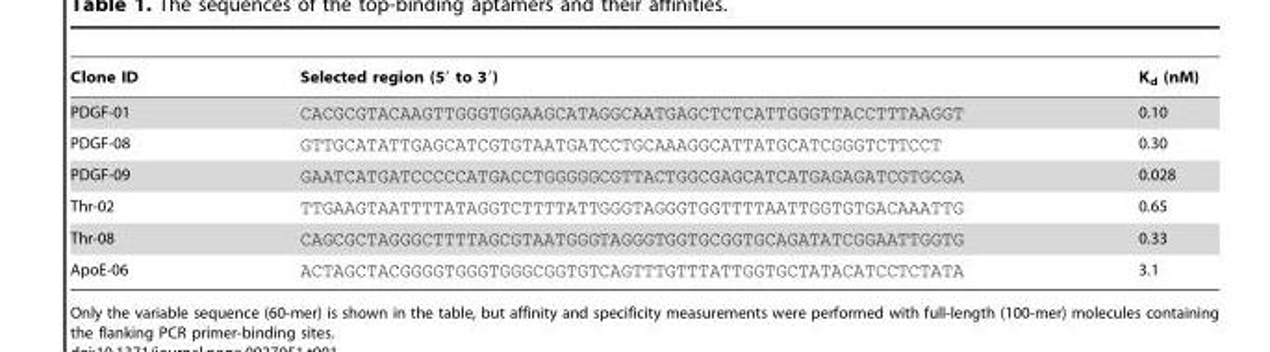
<table><thead><tr><td>Clone ID</td><td>Selected region (5′ to 3′)</td><td>K<sub>d</sub> (nM)</td></tr></thead><tbody><tr><td>PDGF-01</td><td>CACGCGTACAAGTTGGGTGGAAGCATAGGCAATGAGCTCTCATTGGGTTACCTTTAAGGT</td><td>0.10</td></tr><tr><td>PDGF-08</td><td>GTTGCATATTGAGCATCGTGTAATGATCCTGCAAAGGCATTATGCATCGGGTCTTCCT</td><td>0.30</td></tr><tr><td>PDGF-09</td><td>GAATCATGATCCCCCATGACCTGGGGGCGTTACTGGCGAGCATCATGAGAGATCGTGCGA</td><td>0.028</td></tr><tr><td>Thr-02</td><td>TTGAAGTAATTTTATAGGTCTTTTATTGGGTAGGGTGGTTTTAATTGGTGTGACAAATTG</td><td>0.65</td></tr><tr><td>Thr-08</td><td>CAGCGCTAGGGCTTTTAGCGTAATGGGTAGGGTGGTGCGGTGCAGATATCGGAATTGGTG</td><td>0.33</td></tr><tr><td>ApoE-06</td><td>ACTAGCTACGGGGTGGGTGGGCGGTGTCAGTTTGTTTATTGGTGCTATACATCCTCTATA</td><td>3.1</td></tr></tbody></table>